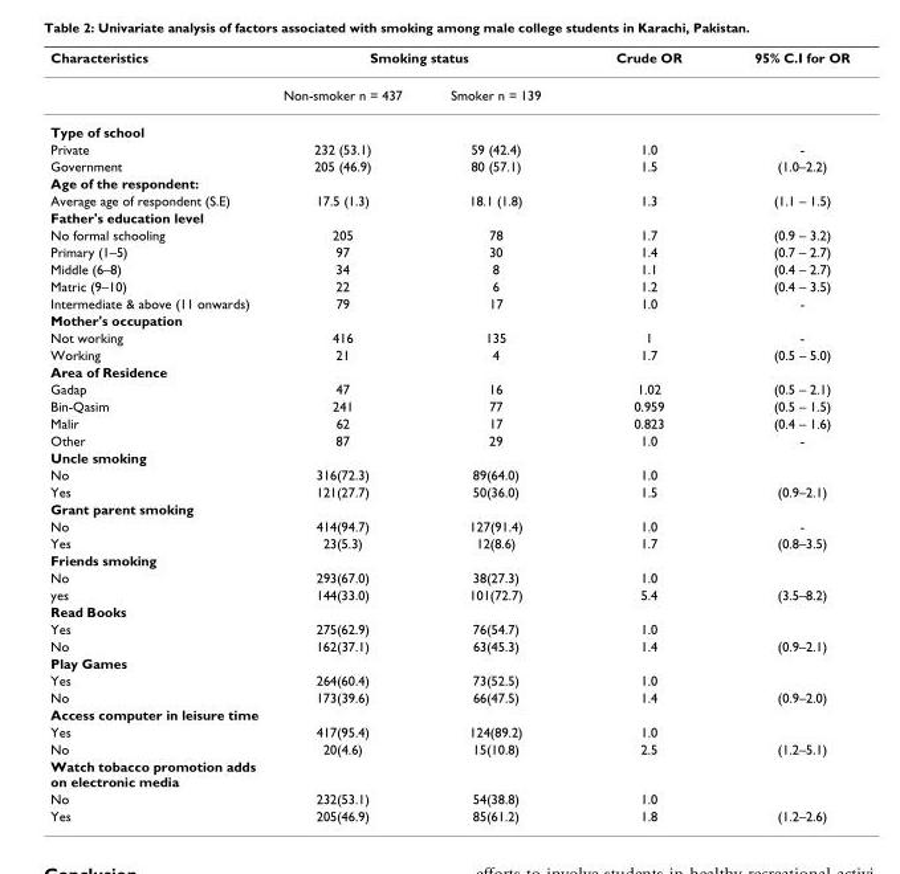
<table><thead><tr><td rowspan="2">Characteristics</td><td colspan="2">Smoking status</td><td rowspan="2">Crude OR</td><td rowspan="2">95% C.I for OR</td></tr><tr><td>Non-smoker n = 437</td><td>Smoker n = 139</td></tr></thead><tbody><tr><td colspan="5">Type of school</td></tr><tr><td>Private</td><td>232 (53.1)</td><td>59 (42.4)</td><td>1.0</td><td>-</td></tr><tr><td>Government</td><td>205 (46.9)</td><td>80 (57.1)</td><td>1.5</td><td>(1.0–2.2)</td></tr><tr><td colspan="5">Age of the respondent:</td></tr><tr><td>Average age of respondent (S.E)</td><td>17.5 (1.3)</td><td>18.1 (1.8)</td><td>1.3</td><td>(1.1 – 1.5)</td></tr><tr><td colspan="5">Father&#x27;s education level</td></tr><tr><td>No formal schooling</td><td>205</td><td>78</td><td>1.7</td><td>(0.9 – 3.2)</td></tr><tr><td>Primary (1–5)</td><td>97</td><td>30</td><td>1.4</td><td>(0.7 – 2.7)</td></tr><tr><td>Middle (6–8)</td><td>34</td><td>8</td><td>1.1</td><td>(0.4 – 2.7)</td></tr><tr><td>Matric (9–10)</td><td>22</td><td>6</td><td>1.2</td><td>(0.4 – 3.5)</td></tr><tr><td>Intermediate &amp; above (11 onwards)</td><td>79</td><td>17</td><td>1.0</td><td>-</td></tr><tr><td colspan="5">Mother&#x27;s occupation</td></tr><tr><td>Not working</td><td>416</td><td>135</td><td>1</td><td>-</td></tr><tr><td>Working</td><td>21</td><td>4</td><td>1.7</td><td>(0.5 – 5.0)</td></tr><tr><td colspan="5">Area of Residence</td></tr><tr><td>Gadap</td><td>47</td><td>16</td><td>1.02</td><td>(0.5 – 2.1)</td></tr><tr><td>Bin-Qasim</td><td>241</td><td>77</td><td>0.959</td><td>(0.5 – 1.5)</td></tr><tr><td>Malir</td><td>62</td><td>17</td><td>0.823</td><td>(0.4 – 1.6)</td></tr><tr><td>Other</td><td>87</td><td>29</td><td>1.0</td><td>-</td></tr><tr><td colspan="5">Uncle smoking</td></tr><tr><td>No</td><td>316(72.3)</td><td>89(64.0)</td><td>1.0</td><td></td></tr><tr><td>Yes</td><td>121(27.7)</td><td>50(36.0)</td><td>1.5</td><td>(0.9–2.1)</td></tr><tr><td colspan="5">Grant parent smoking</td></tr><tr><td>No</td><td>414(94.7)</td><td>127(91.4)</td><td>1.0</td><td>-</td></tr><tr><td>Yes</td><td>23(5.3)</td><td>12(8.6)</td><td>1.7</td><td>(0.8–3.5)</td></tr><tr><td colspan="5">Friends smoking</td></tr><tr><td>No</td><td>293(67.0)</td><td>38(27.3)</td><td>1.0</td><td></td></tr><tr><td>yes</td><td>144(33.0)</td><td>101(72.7)</td><td>5.4</td><td>(3.5–8.2)</td></tr><tr><td colspan="5">Read Books</td></tr><tr><td>Yes</td><td>275(62.9)</td><td>76(54.7)</td><td>1.0</td><td></td></tr><tr><td>No</td><td>162(37.1)</td><td>63(45.3)</td><td>1.4</td><td>(0.9–2.1)</td></tr><tr><td colspan="5">Play Games</td></tr><tr><td>Yes</td><td>264(60.4)</td><td>73(52.5)</td><td>1.0</td><td></td></tr><tr><td>No</td><td>173(39.6)</td><td>66(47.5)</td><td>1.4</td><td>(0.9–2.0)</td></tr><tr><td colspan="5">Access computer in leisure time</td></tr><tr><td>Yes</td><td>417(95.4)</td><td>124(89.2)</td><td>1.0</td><td></td></tr><tr><td>No</td><td>20(4.6)</td><td>15(10.8)</td><td>2.5</td><td>(1.2–5.1)</td></tr><tr><td colspan="5">Watch tobacco promotion adds on electronic media</td></tr><tr><td>No</td><td>232(53.1)</td><td>54(38.8)</td><td>1.0</td><td></td></tr><tr><td>Yes</td><td>205(46.9)</td><td>85(61.2)</td><td>1.8</td><td>(1.2–2.6)</td></tr></tbody></table>